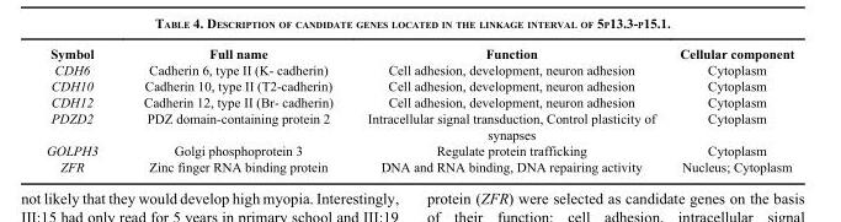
<table><thead><tr><td>Symbol</td><td>Full name</td><td>Function</td><td>Cellular component</td></tr></thead><tbody><tr><td>CDH6</td><td>Cadherin 6, type II (K- cadherin)</td><td>Cell adhesion, development, neuron adhesion</td><td>Cytoplasm</td></tr><tr><td>CDH10</td><td>Cadherin 10, type II (T2-cadherin)</td><td>Cell adhesion, development, neuron adhesion</td><td>Cytoplasm</td></tr><tr><td>CDH12</td><td>Cadherin 12, type II (Br- cadherin)</td><td>Cell adhesion, development, neuron adhesion</td><td>Cytoplasm</td></tr><tr><td>PDZD2</td><td>PDZ domain-containing protein 2</td><td>Intracellular signal transduction, Control plasticity of synapses</td><td>Cytoplasm</td></tr><tr><td>GOLPH3</td><td>Golgi phosphoprotein 3</td><td>Regulate protein trafficking</td><td>Cytoplasm</td></tr><tr><td>ZFR</td><td>Zinc finger RNA binding protein</td><td>DNA and RNA binding, DNA repairing activity</td><td>Nucleus; Cytoplasm</td></tr></tbody></table>